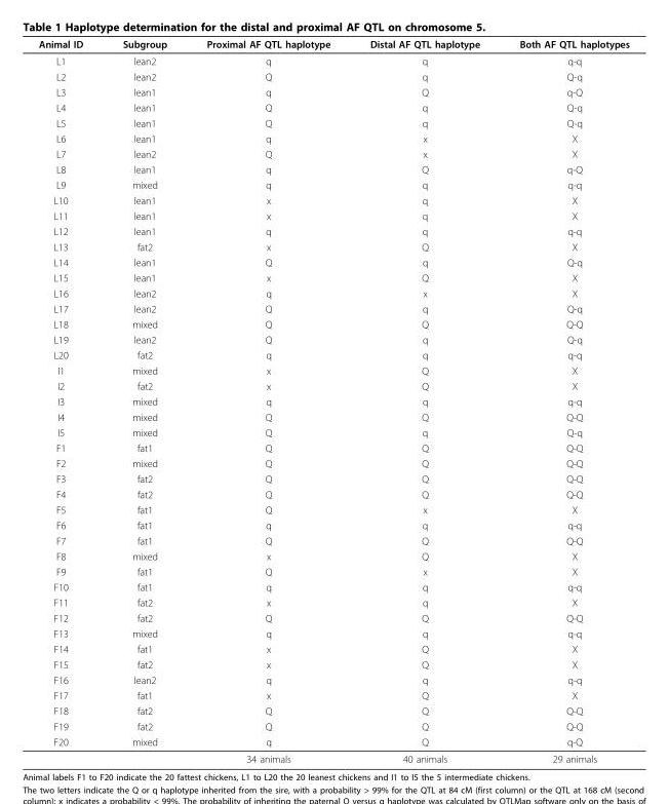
<table><thead><tr><td>Animal ID</td><td>Subgroup</td><td>Proximal AF QTL haplotype</td><td>Distal AF QTL haplotype</td><td>Both AF QTL haplotypes</td></tr></thead><tbody><tr><td>L1</td><td>lean2</td><td>q</td><td>q</td><td>q-q</td></tr><tr><td>L2</td><td>lean2</td><td>Q</td><td>q</td><td>Q-q</td></tr><tr><td>L3</td><td>lean1</td><td>q</td><td>Q</td><td>q-Q</td></tr><tr><td>L4</td><td>lean1</td><td>Q</td><td>q</td><td>Q-q</td></tr><tr><td>L5</td><td>lean1</td><td>Q</td><td>q</td><td>Q-q</td></tr><tr><td>L6</td><td>lean1</td><td>q</td><td>x</td><td>X</td></tr><tr><td>L7</td><td>lean2</td><td>Q</td><td>x</td><td>X</td></tr><tr><td>L8</td><td>lean1</td><td>q</td><td>Q</td><td>q-Q</td></tr><tr><td>L9</td><td>mixed</td><td>q</td><td>q</td><td>q-q</td></tr><tr><td>L10</td><td>lean1</td><td>x</td><td>q</td><td>X</td></tr><tr><td>L11</td><td>lean1</td><td>x</td><td>q</td><td>X</td></tr><tr><td>L12</td><td>lean1</td><td>q</td><td>q</td><td>q-q</td></tr><tr><td>L13</td><td>fat2</td><td>x</td><td>Q</td><td>X</td></tr><tr><td>L14</td><td>lean1</td><td>Q</td><td>q</td><td>Q-q</td></tr><tr><td>L15</td><td>lean1</td><td>x</td><td>Q</td><td>X</td></tr><tr><td>L16</td><td>lean2</td><td>q</td><td>x</td><td>X</td></tr><tr><td>L17</td><td>lean2</td><td>Q</td><td>q</td><td>Q-q</td></tr><tr><td>L18</td><td>mixed</td><td>Q</td><td>Q</td><td>Q-Q</td></tr><tr><td>L19</td><td>lean2</td><td>Q</td><td>q</td><td>Q-q</td></tr><tr><td>L20</td><td>fat2</td><td>q</td><td>q</td><td>q-q</td></tr><tr><td>I1</td><td>mixed</td><td>x</td><td>Q</td><td>X</td></tr><tr><td>I2</td><td>fat2</td><td>x</td><td>Q</td><td>X</td></tr><tr><td>I3</td><td>mixed</td><td>q</td><td>q</td><td>q-q</td></tr><tr><td>I4</td><td>mixed</td><td>Q</td><td>Q</td><td>Q-Q</td></tr><tr><td>I5</td><td>mixed</td><td>Q</td><td>q</td><td>Q-q</td></tr><tr><td>F1</td><td>fat1</td><td>Q</td><td>Q</td><td>Q-Q</td></tr><tr><td>F2</td><td>mixed</td><td>Q</td><td>Q</td><td>Q-Q</td></tr><tr><td>F3</td><td>fat2</td><td>Q</td><td>Q</td><td>Q-Q</td></tr><tr><td>F4</td><td>fat2</td><td>Q</td><td>Q</td><td>Q-Q</td></tr><tr><td>F5</td><td>fat1</td><td>Q</td><td>x</td><td>X</td></tr><tr><td>F6</td><td>fat1</td><td>q</td><td>q</td><td>q-q</td></tr><tr><td>F7</td><td>fat1</td><td>Q</td><td>Q</td><td>Q-Q</td></tr><tr><td>F8</td><td>mixed</td><td>x</td><td>Q</td><td>X</td></tr><tr><td>F9</td><td>fat1</td><td>Q</td><td>x</td><td>X</td></tr><tr><td>F10</td><td>fat1</td><td>q</td><td>q</td><td>q-q</td></tr><tr><td>F11</td><td>fat2</td><td>x</td><td>q</td><td>X</td></tr><tr><td>F12</td><td>fat2</td><td>Q</td><td>Q</td><td>Q-Q</td></tr><tr><td>F13</td><td>mixed</td><td>q</td><td>q</td><td>q-q</td></tr><tr><td>F14</td><td>fat1</td><td>x</td><td>Q</td><td>X</td></tr><tr><td>F15</td><td>fat2</td><td>x</td><td>Q</td><td>X</td></tr><tr><td>F16</td><td>lean2</td><td>q</td><td>q</td><td>q-q</td></tr><tr><td>F17</td><td>fat1</td><td>x</td><td>Q</td><td>X</td></tr><tr><td>F18</td><td>fat2</td><td>Q</td><td>Q</td><td>Q-Q</td></tr><tr><td>F19</td><td>fat2</td><td>Q</td><td>Q</td><td>Q-Q</td></tr><tr><td rowspan="2">F20</td><td>mixed</td><td>q</td><td>Q</td><td>q-Q</td></tr><tr><td></td><td>34 animals</td><td>40 animals</td><td>29 animals</td></tr></tbody></table>